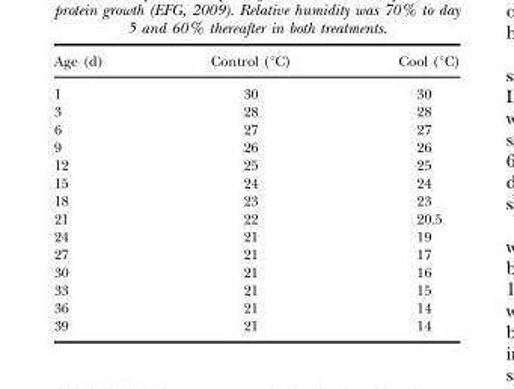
<table><thead><tr><td>Age (d)</td><td>Control (°C)</td><td>Cool (°C)</td></tr></thead><tbody><tr><td>1</td><td>30</td><td>30</td></tr><tr><td>3</td><td>28</td><td>28</td></tr><tr><td>6</td><td>27</td><td>27</td></tr><tr><td>9</td><td>26</td><td>26</td></tr><tr><td>12</td><td>25</td><td>25</td></tr><tr><td>15</td><td>24</td><td>24</td></tr><tr><td>18</td><td>23</td><td>23</td></tr><tr><td>21</td><td>22</td><td>20.5</td></tr><tr><td>24</td><td>21</td><td>19</td></tr><tr><td>27</td><td>21</td><td>17</td></tr><tr><td>30</td><td>21</td><td>16</td></tr><tr><td>33</td><td>21</td><td>15</td></tr><tr><td>36</td><td>21</td><td>14</td></tr><tr><td>39</td><td>21</td><td>14</td></tr></tbody></table>